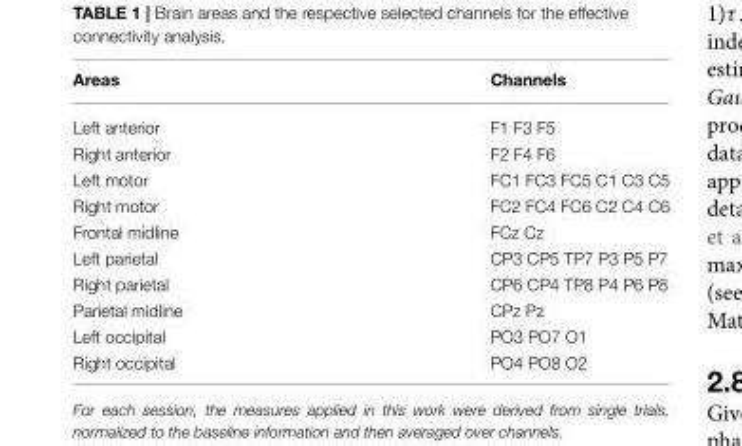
<table><thead><tr><td>Areas</td><td>Channels</td></tr></thead><tbody><tr><td>Left anterior</td><td>F1 F3 F5</td></tr><tr><td>Right anterior</td><td>F2 F4 F6</td></tr><tr><td>Left motor</td><td>FC1 FC3 FC5 C1 C3 C5</td></tr><tr><td>Right motor</td><td>FC2 FC4 FC6 C2 C4 C6</td></tr><tr><td>Frontal midline</td><td>FCz Cz</td></tr><tr><td>Left parietal</td><td>CP3 CP5 TP7 P3 P5 P7</td></tr><tr><td>Right parietal</td><td>CP6 CP4 TP8 P4 P6 P8</td></tr><tr><td>Parietal midline</td><td>CPz Pz</td></tr><tr><td>Left occipital</td><td>PO3 PO7 O1</td></tr><tr><td>Right occipital</td><td>PO4 PO8 O2</td></tr></tbody></table>